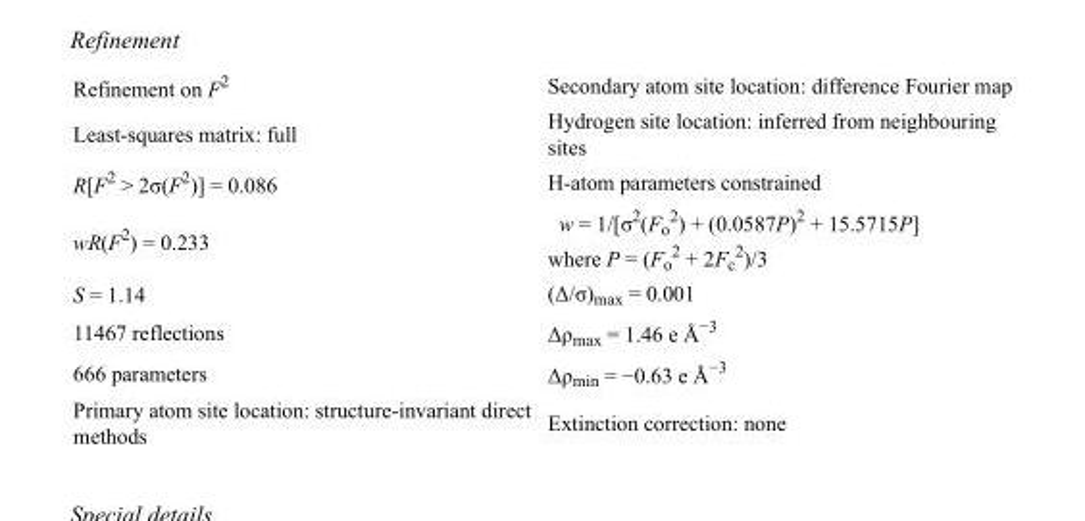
<table><tbody><tr><td>Refinement on F<sup>2</sup></td><td>Secondary atom site location: difference Fourier map</td></tr><tr><td>Least-squares matrix: full</td><td>Hydrogen site location: inferred from neighbouring sites</td></tr><tr><td>R[F<sup>2</sup> &gt; 2σ(F<sup>2</sup>)] = 0.086</td><td>H-atom parameters constrained</td></tr><tr><td>wR(F<sup>2</sup>) = 0.233</td><td>w = 1/[σ<sup>2</sup>(F<sub>o</sub> <sup>2</sup>) + (0.0587P)<sup>2</sup> + 15.5715P] where P = (F<sub>o</sub> <sup>2</sup> + 2F<sub>c</sub> <sup>2</sup>)/3</td></tr><tr><td>S = 1.14</td><td>(Δ/σ)<sub>max</sub> = 0.001</td></tr><tr><td>11467 reflections</td><td>Δρ<sub>max</sub> = 1.46 e Å<sup>−3</sup></td></tr><tr><td>666 parameters</td><td>Δρ<sub>min</sub> = −0.63 e Å<sup>−3</sup></td></tr><tr><td>Primary atom site location: structure-invariant direct methods</td><td>Extinction correction: none</td></tr></tbody></table>